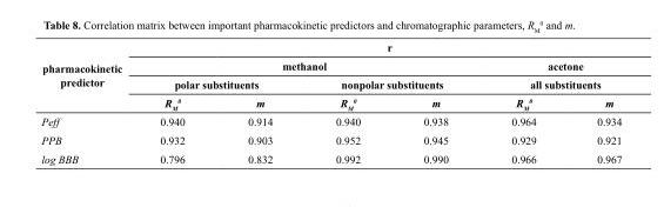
<table><thead><tr><td rowspan="4">pharmacokinetic predictor</td><td colspan="6">r</td></tr><tr><td colspan="4">methanol</td><td rowspan="2" colspan="2">acetone all substituents</td></tr><tr><td colspan="2">polar substituents</td><td colspan="2">nonpolar substituents</td></tr><tr><td>R<sub>M</sub> <sup>0</sup></td><td>m</td><td>R<sub>M</sub> <sup>0</sup></td><td>m</td><td>R<sub>M</sub> <sup>0</sup></td><td>m</td></tr></thead><tbody><tr><td>P<sub>eff</sub></td><td>0.940</td><td>0.914</td><td>0.940</td><td>0.938</td><td>0.964</td><td>0.934</td></tr><tr><td>PPB</td><td>0.932</td><td>0.903</td><td>0.952</td><td>0.945</td><td>0.929</td><td>0.921</td></tr><tr><td>log BBB</td><td>0.796</td><td>0.832</td><td>0.992</td><td>0.990</td><td>0.966</td><td>0.967</td></tr></tbody></table>